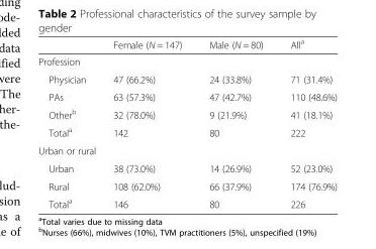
<table><thead><tr><td></td><td>Female (N = 147)</td><td>Male (N = 80)</td><td>All<sup>a</sup></td></tr></thead><tbody><tr><td colspan="4">Profession</td></tr><tr><td>Physician</td><td>47 (66.2%)</td><td>24 (33.8%)</td><td>71 (31.4%)</td></tr><tr><td>PAs</td><td>63 (57.3%)</td><td>47 (42.7%)</td><td>110 (48.6%)</td></tr><tr><td>Other<sup>b</sup></td><td>32 (78.0%)</td><td>9 (21.9%)</td><td>41 (18.1%)</td></tr><tr><td>Total<sup>a</sup></td><td>142</td><td>80</td><td>222</td></tr><tr><td colspan="4">Urban or rural</td></tr><tr><td>Urban</td><td>38 (73.0%)</td><td>14 (26.9%)</td><td>52 (23.0%)</td></tr><tr><td>Rural</td><td>108 (62.0%)</td><td>66 (37.9%)</td><td>174 (76.9%)</td></tr><tr><td>Total<sup>a</sup></td><td>146</td><td>80</td><td>226</td></tr></tbody></table>